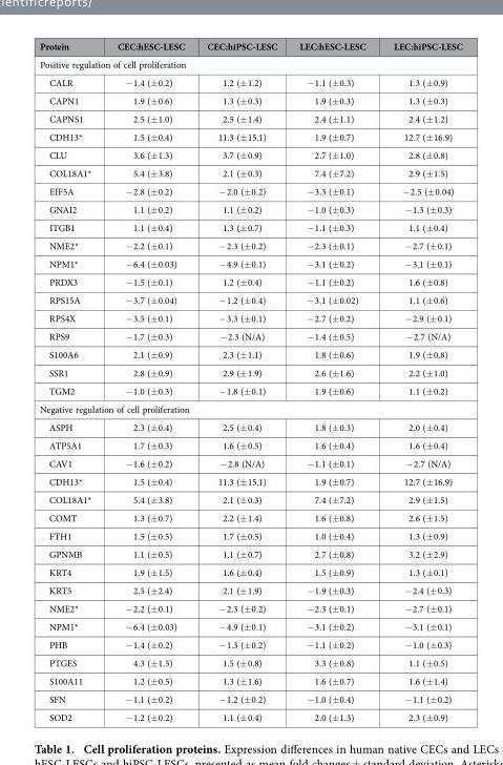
<table><thead><tr><td>Protein</td><td>CEC:hESC-LESC</td><td>CEC:hiPSC-LESC</td><td>LEC:hESC-LESC</td><td>LEC:hiPSC-LESC</td></tr></thead><tbody><tr><td colspan="5">Positive regulation of cell proliferation</td></tr><tr><td>CALR</td><td>− 1.4 (± 0.2)</td><td>1.2 (± 1.2)</td><td>− 1.1 (± 0.3)</td><td>1.3 (± 0.9)</td></tr><tr><td>CAPN1</td><td>1.9 (± 0.6)</td><td>1.3 (± 0.3)</td><td>1.9 (± 0.3)</td><td>1.3 (± 0.3)</td></tr><tr><td>CAPNS1</td><td>2.5 (± 1.0)</td><td>2.5 (± 1.4)</td><td>2.4 (± 1.1)</td><td>2.4 (± 1.2)</td></tr><tr><td>CDH13*</td><td>1.5 (± 0.4)</td><td>11.3 (± 15.1)</td><td>1.9 (± 0.7)</td><td>12.7 (± 16.9)</td></tr><tr><td>CLU</td><td>3.6 (± 1.3)</td><td>3.7 (± 0.9)</td><td>2.7 (± 1.0)</td><td>2.8 (± 0.8)</td></tr><tr><td>COL18A1*</td><td>5.4 (± 3.8)</td><td>2.1 (± 0.3)</td><td>7.4 (± 7.2)</td><td>2.9 (± 1.5)</td></tr><tr><td>EIF5A</td><td>− 2.8 (± 0.2)</td><td>− 2.0 (± 0.2)</td><td>− 3.3 (± 0.1)</td><td>− 2.5 (± 0.04)</td></tr><tr><td>GNAI2</td><td>1.1 (± 0.2)</td><td>1.1 (± 0.2)</td><td>− 1.0 (± 0.3)</td><td>− 1.3 (± 0.3)</td></tr><tr><td>ITGB1</td><td>1.1 (± 0.4)</td><td>1.3 (± 0.7)</td><td>− 1.1 (± 0.3)</td><td>1.1 (± 0.4)</td></tr><tr><td>NME2*</td><td>− 2.2 (± 0.1)</td><td>− 2.3 (± 0.2)</td><td>− 2.3 (± 0.1)</td><td>− 2.7 (± 0.1)</td></tr><tr><td>NPM1*</td><td>− 6.4 (± 0.03)</td><td>− 4.9 (± 0.1)</td><td>− 3.1 (± 0.2)</td><td>− 3.1 (± 0.1)</td></tr><tr><td>PRDX3</td><td>− 1.5 (± 0.1)</td><td>1.2 (± 0.4)</td><td>− 1.1 (± 0.2)</td><td>1.6 (± 0.8)</td></tr><tr><td>RPS15A</td><td>− 3.7 (± 0.04)</td><td>− 1.2 (± 0.4)</td><td>− 3.1 (± 0.02)</td><td>1.1 (± 0.6)</td></tr><tr><td>RPS4X</td><td>− 3.5 (± 0.1)</td><td>− 3.3 (± 0.1)</td><td>− 2.7 (± 0.2)</td><td>− 2.9 (± 0.1)</td></tr><tr><td>RPS9</td><td>− 1.7 (± 0.3)</td><td>− 2.3 (N/A)</td><td>− 1.4 (± 0.5)</td><td>− 2.7 (N/A)</td></tr><tr><td>S100A6</td><td>2.1 (± 0.9)</td><td>2.3 (± 1.1)</td><td>1.8 (± 0.6)</td><td>1.9 (± 0.8)</td></tr><tr><td>SSR1</td><td>2.8 (± 0.9)</td><td>2.9 (± 1.9)</td><td>2.6 (± 1.6)</td><td>2.2 (± 1.0)</td></tr><tr><td>TGM2</td><td>− 1.0 (± 0.3)</td><td>− 1.8 (± 0.1)</td><td>1.9 (± 0.6)</td><td>1.1 (± 0.2)</td></tr><tr><td colspan="5">Negative regulation of cell proliferation</td></tr><tr><td>ASPH</td><td>2.3 (± 0.4)</td><td>2.5 (± 0.4)</td><td>1.8 (± 0.3)</td><td>2.0 (± 0.4)</td></tr><tr><td>ATP5A1</td><td>1.7 (± 0.3)</td><td>1.6 (± 0.5)</td><td>1.6 (± 0.4)</td><td>1.6 (± 0.4)</td></tr><tr><td>CAV1</td><td>− 1.6 (± 0.2)</td><td>− 2.8 (N/A)</td><td>− 1.1 (± 0.1)</td><td>− 2.7 (N/A)</td></tr><tr><td>CDH13*</td><td>1.5 (± 0.4)</td><td>11.3 (± 15.1)</td><td>1.9 (± 0.7)</td><td>12.7 (± 16.9)</td></tr><tr><td>COL18A1*</td><td>5.4 (± 3.8)</td><td>2.1 (± 0.3)</td><td>7.4 (± 7.2)</td><td>2.9 (± 1.5)</td></tr><tr><td>COMT</td><td>1.3 (± 0.7)</td><td>2.2 (± 1.4)</td><td>1.6 (± 0.8)</td><td>2.6 (± 1.5)</td></tr><tr><td>FTH1</td><td>1.5 (± 0.5)</td><td>1.7 (± 0.5)</td><td>1.0 (± 0.4)</td><td>1.3 (± 0.9)</td></tr><tr><td>GPNMB</td><td>1.1 (± 0.5)</td><td>1.1 (± 0.7)</td><td>2.7 (± 0.8)</td><td>3.2 (± 2.9)</td></tr><tr><td>KRT4</td><td>1.9 (± 1.5)</td><td>1.6 (± 0.4)</td><td>1.5 (± 0.9)</td><td>1.3 (± 0.1)</td></tr><tr><td>KRT5</td><td>2.5 (± 2.4)</td><td>2.1 (± 1.9)</td><td>− 1.9 (± 0.3)</td><td>− 2.4 (± 0.3)</td></tr><tr><td>NME2*</td><td>− 2.2 (± 0.1)</td><td>− 2.3 (± 0.2)</td><td>− 2.3 (± 0.1)</td><td>− 2.7 (± 0.1)</td></tr><tr><td>NPM1*</td><td>− 6.4 (± 0.03)</td><td>− 4.9 (± 0.1)</td><td>− 3.1 (± 0.2)</td><td>− 3.1 (± 0.1)</td></tr><tr><td>PHB</td><td>− 1.4 (± 0.2)</td><td>− 1.3 (± 0.2)</td><td>− 1.1 (± 0.2)</td><td>− 1.0 (± 0.3)</td></tr><tr><td>PTGES</td><td>4.3 (± 1.5)</td><td>1.5 (± 0.8)</td><td>3.3 (± 0.8)</td><td>1.1 (± 0.5)</td></tr><tr><td>S100A11</td><td>1.2 (± 0.5)</td><td>1.3 (± 1.6)</td><td>1.6 (± 0.7)</td><td>1.6 (± 1.4)</td></tr><tr><td>SFN</td><td>− 1.1 (± 0.2)</td><td>− 1.2 (± 0.2)</td><td>− 1.0 (± 0.4)</td><td>− 1.1 (± 0.2)</td></tr><tr><td>SOD2</td><td>− 1.2 (± 0.2)</td><td>1.1 (± 0.4)</td><td>2.0 (± 1.3)</td><td>2.3 (± 0.9)</td></tr></tbody></table>